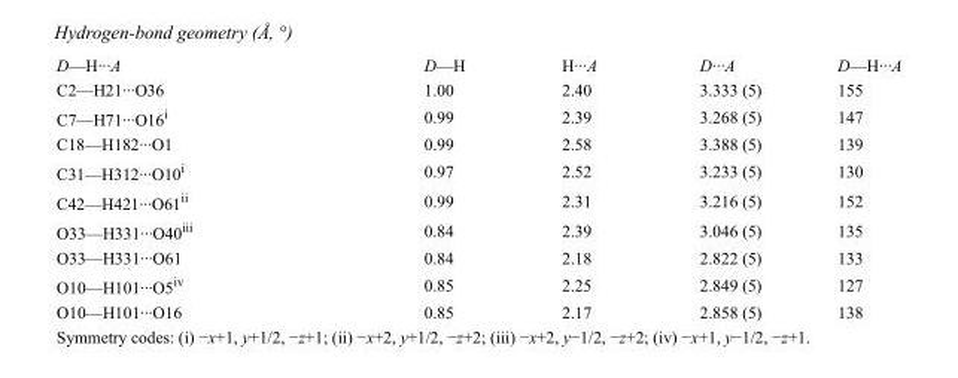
<table><tbody><tr><td>D—H···A</td><td>D—H</td><td>H···A</td><td>D···A</td><td>D—H···A</td></tr><tr><td>C2—H21···O36</td><td>1.00</td><td>2.40</td><td>3.333 (5)</td><td>155</td></tr><tr><td>C7—H71···O16<sup>i</sup></td><td>0.99</td><td>2.39</td><td>3.268 (5)</td><td>147</td></tr><tr><td>C18—H182···O1</td><td>0.99</td><td>2.58</td><td>3.388 (5)</td><td>139</td></tr><tr><td>C31—H312···O10<sup>i</sup></td><td>0.97</td><td>2.52</td><td>3.233 (5)</td><td>130</td></tr><tr><td>C42—H421···O61<sup>ii</sup></td><td>0.99</td><td>2.31</td><td>3.216 (5)</td><td>152</td></tr><tr><td>O33—H331···O40<sup>iii</sup></td><td>0.84</td><td>2.39</td><td>3.046 (5)</td><td>135</td></tr><tr><td>O33—H331···O61</td><td>0.84</td><td>2.18</td><td>2.822 (5)</td><td>133</td></tr><tr><td>O10—H101···O5<sup>iv</sup></td><td>0.85</td><td>2.25</td><td>2.849 (5)</td><td>127</td></tr><tr><td>O10—H101···O16</td><td>0.85</td><td>2.17</td><td>2.858 (5)</td><td>138</td></tr></tbody></table>